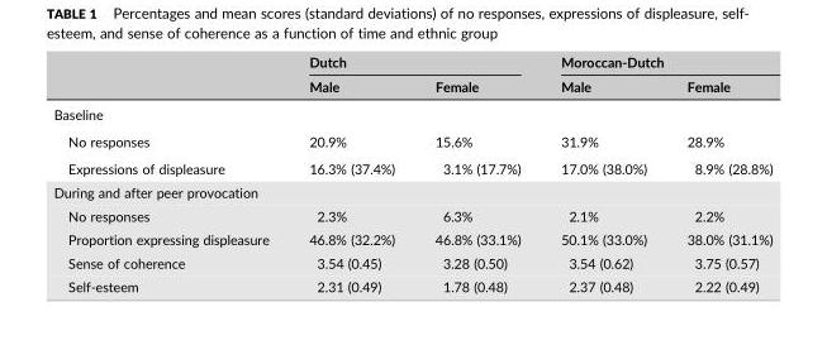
<table><thead><tr><td rowspan="2"></td><td colspan="2">Dutch</td><td colspan="2">Moroccan‐Dutch</td></tr><tr><td>Male</td><td>Female</td><td>Male</td><td>Female</td></tr></thead><tbody><tr><td colspan="5">Baseline</td></tr><tr><td>No responses</td><td>20.9%</td><td>15.6%</td><td>31.9%</td><td>28.9%</td></tr><tr><td>Expressions of displeasure</td><td>16.3% (37.4%)</td><td>3.1% (17.7%)</td><td>17.0% (38.0%)</td><td>8.9% (28.8%)</td></tr><tr><td colspan="5">During and after peer provocation</td></tr><tr><td>No responses</td><td>2.3%</td><td>6.3%</td><td>2.1%</td><td>2.2%</td></tr><tr><td>Proportion expressing displeasure</td><td>46.8% (32.2%)</td><td>46.8% (33.1%)</td><td>50.1% (33.0%)</td><td>38.0% (31.1%)</td></tr><tr><td>Sense of coherence</td><td>3.54 (0.45)</td><td>3.28 (0.50)</td><td>3.54 (0.62)</td><td>3.75 (0.57)</td></tr><tr><td>Self‐esteem</td><td>2.31 (0.49)</td><td>1.78 (0.48)</td><td>2.37 (0.48)</td><td>2.22 (0.49)</td></tr></tbody></table>